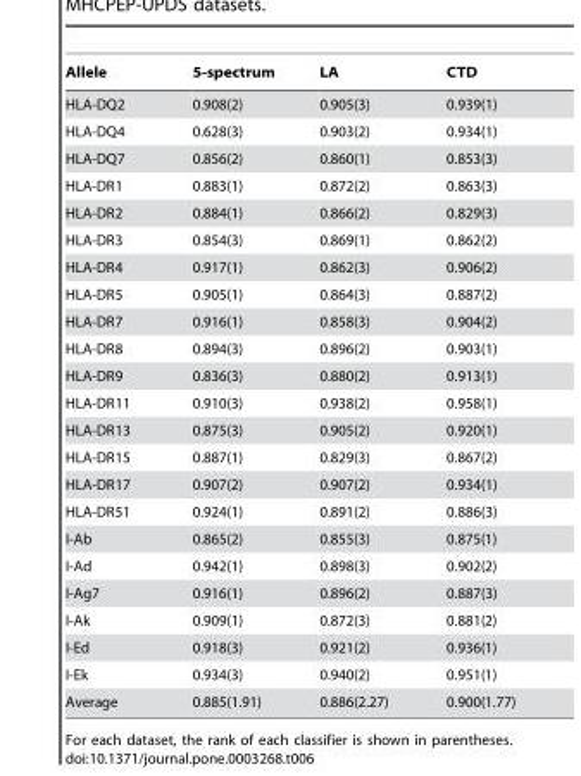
<table><thead><tr><td>Allele</td><td>5-spectrum</td><td>LA</td><td>CTD</td></tr></thead><tbody><tr><td>HLA-DQ2</td><td>0.908(2)</td><td>0.905(3)</td><td>0.939(1)</td></tr><tr><td>HLA-DQ4</td><td>0.628(3)</td><td>0.903(2)</td><td>0.934(1)</td></tr><tr><td>HLA-DQ7</td><td>0.856(2)</td><td>0.860(1)</td><td>0.853(3)</td></tr><tr><td>HLA-DR1</td><td>0.883(1)</td><td>0.872(2)</td><td>0.863(3)</td></tr><tr><td>HLA-DR2</td><td>0.884(1)</td><td>0.866(2)</td><td>0.829(3)</td></tr><tr><td>HLA-DR3</td><td>0.854(3)</td><td>0.869(1)</td><td>0.862(2)</td></tr><tr><td>HLA-DR4</td><td>0.917(1)</td><td>0.862(3)</td><td>0.906(2)</td></tr><tr><td>HLA-DR5</td><td>0.905(1)</td><td>0.864(3)</td><td>0.887(2)</td></tr><tr><td>HLA-DR7</td><td>0.916(1)</td><td>0.858(3)</td><td>0.904(2)</td></tr><tr><td>HLA-DR8</td><td>0.894(3)</td><td>0.896(2)</td><td>0.903(1)</td></tr><tr><td>HLA-DR9</td><td>0.836(3)</td><td>0.880(2)</td><td>0.913(1)</td></tr><tr><td>HLA-DR11</td><td>0.910(3)</td><td>0.938(2)</td><td>0.958(1)</td></tr><tr><td>HLA-DR13</td><td>0.875(3)</td><td>0.905(2)</td><td>0.920(1)</td></tr><tr><td>HLA-DR15</td><td>0.887(1)</td><td>0.829(3)</td><td>0.867(2)</td></tr><tr><td>HLA-DR17</td><td>0.907(2)</td><td>0.907(2)</td><td>0.934(1)</td></tr><tr><td>HLA-DR51</td><td>0.924(1)</td><td>0.891(2)</td><td>0.886(3)</td></tr><tr><td>I-Ab</td><td>0.865(2)</td><td>0.855(3)</td><td>0.875(1)</td></tr><tr><td>I-Ad</td><td>0.942(1)</td><td>0.898(3)</td><td>0.902(2)</td></tr><tr><td>I-Ag7</td><td>0.916(1)</td><td>0.896(2)</td><td>0.887(3)</td></tr><tr><td>I-Ak</td><td>0.909(1)</td><td>0.872(3)</td><td>0.881(2)</td></tr><tr><td>I-Ed</td><td>0.918(3)</td><td>0.921(2)</td><td>0.936(1)</td></tr><tr><td>I-Ek</td><td>0.934(3)</td><td>0.940(2)</td><td>0.951(1)</td></tr><tr><td>Average</td><td>0.885(1.91)</td><td>0.886(2.27)</td><td>0.900(1.77)</td></tr></tbody></table>